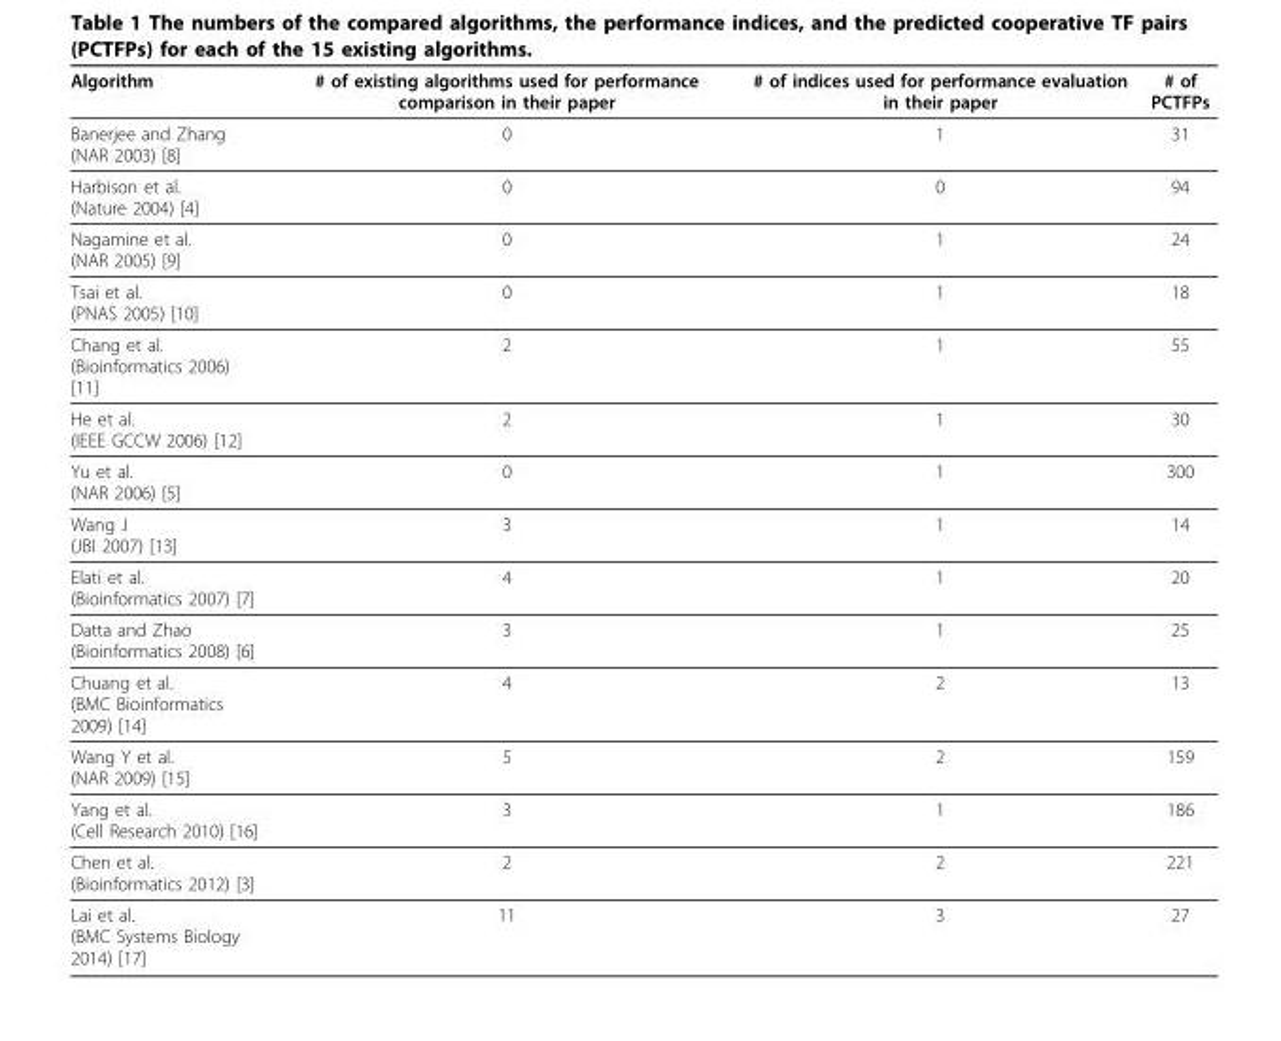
<table><thead><tr><td>Algorithm</td><td># of existing algorithms used for performance comparison in their paper</td><td># of indices used for performance evaluation in their paper</td><td># of PCTFPs</td></tr></thead><tbody><tr><td>Banerjee and Zhang (NAR 2003) [8]</td><td>0</td><td>1</td><td>31</td></tr><tr><td>Harbison et al. (Nature 2004) [4]</td><td>0</td><td>0</td><td>94</td></tr><tr><td>Nagamine et al. (NAR 2005) [9]</td><td>0</td><td>1</td><td>24</td></tr><tr><td>Tsai et al. (PNAS 2005) [10]</td><td>0</td><td>1</td><td>18</td></tr><tr><td>Chang et al. (Bioinformatics 2006) [11]</td><td>2</td><td>1</td><td>55</td></tr><tr><td>He et al. (IEEE GCCW 2006) [12]</td><td>2</td><td>1</td><td>30</td></tr><tr><td>Yu et al. (NAR 2006) [5]</td><td>0</td><td>1</td><td>300</td></tr><tr><td>Wang J (JBI 2007) [13]</td><td>3</td><td>1</td><td>14</td></tr><tr><td>Elati et al. (Bioinformatics 2007) [7]</td><td>4</td><td>1</td><td>20</td></tr><tr><td>Datta and Zhao (Bioinformatics 2008) [6]</td><td>3</td><td>1</td><td>25</td></tr><tr><td>Chuang et al. (BMC Bioinformatics 2009) [14]</td><td>4</td><td>2</td><td>13</td></tr><tr><td>Wang Y et al. (NAR 2009) [15]</td><td>5</td><td>2</td><td>159</td></tr><tr><td>Yang et al. (Cell Research 2010) [16]</td><td>3</td><td>1</td><td>186</td></tr><tr><td>Chen et al. (Bioinformatics 2012) [3]</td><td>2</td><td>2</td><td>221</td></tr><tr><td>Lai et al. (BMC Systems Biology 2014) [17]</td><td>11</td><td>3</td><td>27</td></tr></tbody></table>